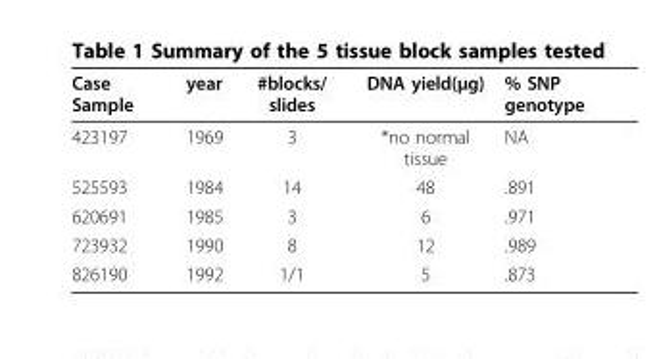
<table><thead><tr><td>Case Sample</td><td>year</td><td>#blocks/ slides</td><td>DNA yield(μg)</td><td>% SNP genotype</td></tr></thead><tbody><tr><td>423197</td><td>1969</td><td>3</td><td>*no normal tissue</td><td>NA</td></tr><tr><td>525593</td><td>1984</td><td>14</td><td>48</td><td>.891</td></tr><tr><td>620691</td><td>1985</td><td>3</td><td>6</td><td>.971</td></tr><tr><td>723932</td><td>1990</td><td>8</td><td>12</td><td>.989</td></tr><tr><td>826190</td><td>1992</td><td>1/1</td><td>5</td><td>.873</td></tr></tbody></table>